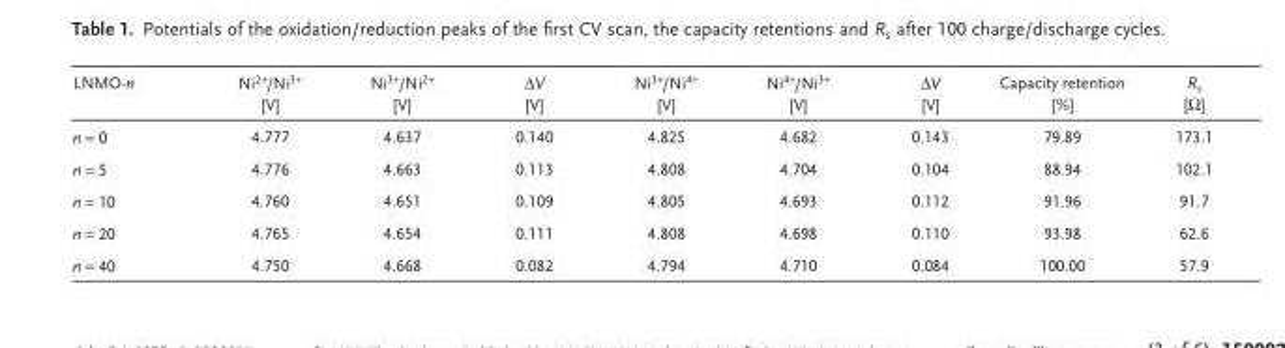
<table><thead><tr><td>LNMO- n</td><td>Ni <sup>2+</sup> /Ni <sup>3+</sup> [V]</td><td>Ni <sup>3+</sup> /Ni <sup>2+</sup> [V]</td><td>Δ V [V]</td><td>Ni <sup>3+</sup> /Ni <sup>4+</sup> [V]</td><td>Ni <sup>4+</sup> /Ni <sup>3+</sup> [V]</td><td>Δ V [V]</td><td>Capacity retention [%]</td><td>R <sub>s</sub> [Ω]</td></tr></thead><tbody><tr><td>n = 0</td><td>4.777</td><td>4.637</td><td>0.140</td><td>4.825</td><td>4.682</td><td>0.143</td><td>79.89</td><td>173.1</td></tr><tr><td>n = 5</td><td>4.776</td><td>4.663</td><td>0.113</td><td>4.808</td><td>4.704</td><td>0.104</td><td>88.94</td><td>102.1</td></tr><tr><td>n = 10</td><td>4.760</td><td>4.651</td><td>0.109</td><td>4.805</td><td>4.693</td><td>0.112</td><td>91.96</td><td>91.7</td></tr><tr><td>n = 20</td><td>4.765</td><td>4.654</td><td>0.111</td><td>4.808</td><td>4.698</td><td>0.110</td><td>93.98</td><td>62.6</td></tr><tr><td>n = 40</td><td>4.750</td><td>4.668</td><td>0.082</td><td>4.794</td><td>4.710</td><td>0.084</td><td>100.00</td><td>57.9</td></tr></tbody></table>